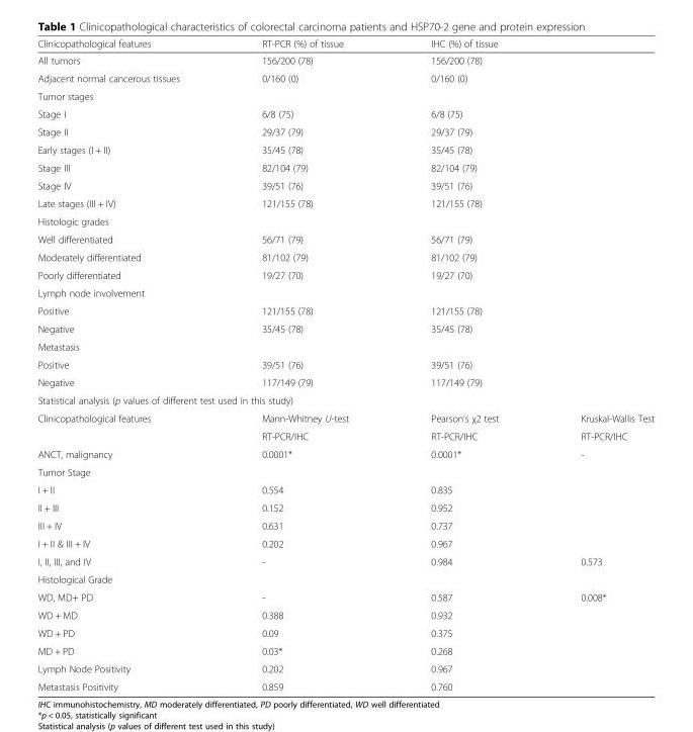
<table><thead><tr><td>Clinicopathological features</td><td>RT-PCR (%) of tissue</td><td>IHC (%) of tissue</td><td></td></tr></thead><tbody><tr><td>All tumors</td><td>156/200 (78)</td><td>156/200 (78)</td><td></td></tr><tr><td>Adjacent normal cancerous tissues</td><td>0/160 (0)</td><td>0/160 (0)</td><td></td></tr><tr><td colspan="4">Tumor stages</td></tr><tr><td>Stage I</td><td>6/8 (75)</td><td>6/8 (75)</td><td></td></tr><tr><td>Stage II</td><td>29/37 (79)</td><td>29/37 (79)</td><td></td></tr><tr><td>Early stages (I + II)</td><td>35/45 (78)</td><td>35/45 (78)</td><td></td></tr><tr><td>Stage III</td><td>82/104 (79)</td><td>82/104 (79)</td><td></td></tr><tr><td>Stage IV</td><td>39/51 (76)</td><td>39/51 (76)</td><td></td></tr><tr><td>Late stages (III + IV)</td><td>121/155 (78)</td><td>121/155 (78)</td><td></td></tr><tr><td colspan="4">Histologic grades</td></tr><tr><td>Well differentiated</td><td>56/71 (79)</td><td>56/71 (79)</td><td></td></tr><tr><td>Moderately differentiated</td><td>81/102 (79)</td><td>81/102 (79)</td><td></td></tr><tr><td>Poorly differentiated</td><td>19/27 (70)</td><td>19/27 (70)</td><td></td></tr><tr><td colspan="4">Lymph node involvement</td></tr><tr><td>Positive</td><td>121/155 (78)</td><td>121/155 (78)</td><td></td></tr><tr><td>Negative</td><td>35/45 (78)</td><td>35/45 (78)</td><td></td></tr><tr><td colspan="4">Metastasis</td></tr><tr><td>Positive</td><td>39/51 (76)</td><td>39/51 (76)</td><td></td></tr><tr><td>Negative</td><td>117/149 (79)</td><td>117/149 (79)</td><td></td></tr><tr><td colspan="4">Statistical analysis (p values of different test used in this study)</td></tr><tr><td rowspan="2">Clinicopathological features</td><td>Mann-Whitney U-test</td><td>Pearson’s χ2 test</td><td>Kruskal-Wallis Test</td></tr><tr><td>RT-PCR/IHC</td><td>RT-PCR/IHC</td><td>RT-PCR/IHC</td></tr><tr><td>ANCT, malignancy</td><td>0.0001*</td><td>0.0001*</td><td>-</td></tr><tr><td colspan="4">Tumor Stage</td></tr><tr><td>I + II</td><td>0.554</td><td>0.835</td><td></td></tr><tr><td>II + III</td><td>0.152</td><td>0.952</td><td></td></tr><tr><td>III + IV</td><td>0.631</td><td>0.737</td><td></td></tr><tr><td>I + II &amp; III + IV</td><td>0.202</td><td>0.967</td><td></td></tr><tr><td>I, II, III, and IV</td><td>-</td><td>0.984</td><td>0.573</td></tr><tr><td colspan="4">Histological Grade</td></tr><tr><td>WD, MD+ PD</td><td>-</td><td>0.587</td><td>0.008*</td></tr><tr><td>WD + MD</td><td>0.388</td><td>0.932</td><td></td></tr><tr><td>WD + PD</td><td>0.09</td><td>0.375</td><td></td></tr><tr><td>MD + PD</td><td>0.03*</td><td>0.268</td><td></td></tr><tr><td>Lymph Node Positivity</td><td>0.202</td><td>0.967</td><td></td></tr><tr><td>Metastasis Positivity</td><td>0.859</td><td>0.760</td><td></td></tr></tbody></table>